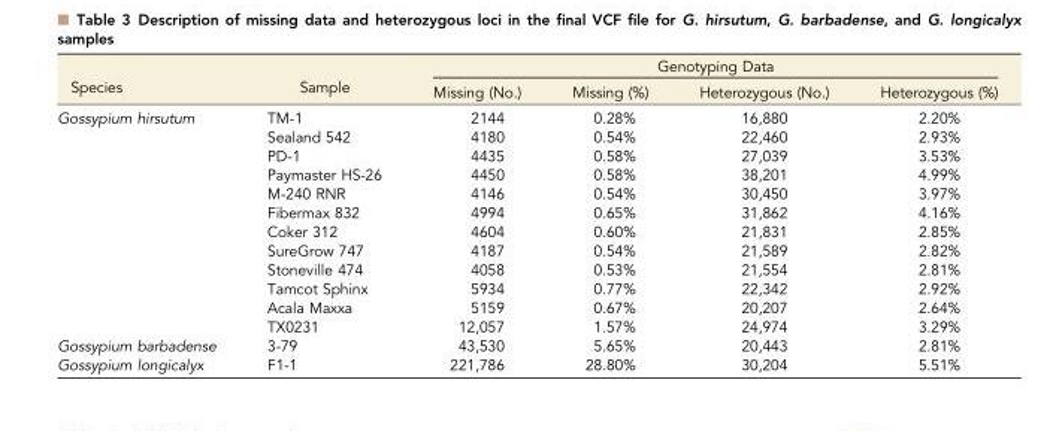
<table><thead><tr><td rowspan="2">Species</td><td rowspan="2">Sample</td><td colspan="4">Genotyping Data</td></tr><tr><td>Missing (No.)</td><td>Missing (%)</td><td>Heterozygous (No.)</td><td>Heterozygous (%)</td></tr></thead><tbody><tr><td rowspan="12">Gossypium hirsutum</td><td>TM-1</td><td>2144</td><td>0.28%</td><td>16,880</td><td>2.20%</td></tr><tr><td>Sealand 542</td><td>4180</td><td>0.54%</td><td>22,460</td><td>2.93%</td></tr><tr><td>PD-1</td><td>4435</td><td>0.58%</td><td>27,039</td><td>3.53%</td></tr><tr><td>Paymaster HS-26</td><td>4450</td><td>0.58%</td><td>38,201</td><td>4.99%</td></tr><tr><td>M-240 RNR</td><td>4146</td><td>0.54%</td><td>30,450</td><td>3.97%</td></tr><tr><td>Fibermax 832</td><td>4994</td><td>0.65%</td><td>31,862</td><td>4.16%</td></tr><tr><td>Coker 312</td><td>4604</td><td>0.60%</td><td>21,831</td><td>2.85%</td></tr><tr><td>SureGrow 747</td><td>4187</td><td>0.54%</td><td>21,589</td><td>2.82%</td></tr><tr><td>Stoneville 474</td><td>4058</td><td>0.53%</td><td>21,554</td><td>2.81%</td></tr><tr><td>Tamcot Sphinx</td><td>5934</td><td>0.77%</td><td>22,342</td><td>2.92%</td></tr><tr><td>Acala Maxxa</td><td>5159</td><td>0.67%</td><td>20,207</td><td>2.64%</td></tr><tr><td>TX0231</td><td>12,057</td><td>1.57%</td><td>24,974</td><td>3.29%</td></tr><tr><td>Gossypium barbadense</td><td>3-79</td><td>43,530</td><td>5.65%</td><td>20,443</td><td>2.81%</td></tr><tr><td>Gossypium longicalyx</td><td>F1-1</td><td>221,786</td><td>28.80%</td><td>30,204</td><td>5.51%</td></tr></tbody></table>